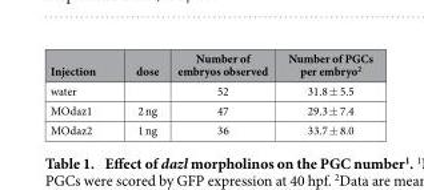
<table><thead><tr><td>Injection</td><td>dose</td><td>Number of embryos observed</td><td>Number of PGCs per embryo<sup>2</sup></td></tr></thead><tbody><tr><td>water</td><td></td><td>52</td><td>31.8 ± 5.5</td></tr><tr><td>MOdaz1</td><td>2 ng</td><td>47</td><td>29.3 ± 7.4</td></tr><tr><td>MOdaz2</td><td>1 ng</td><td>36</td><td>33.7 ± 8.0</td></tr></tbody></table>